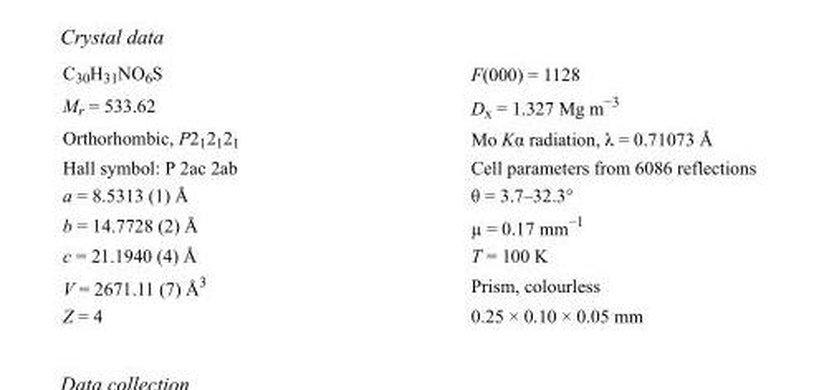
<table><tbody><tr><td>C<sub>30</sub>H<sub>31</sub>NO<sub>6</sub>S</td><td>F(000) = 1128</td></tr><tr><td>M<sub>r</sub> = 533.62</td><td>D<sub>x</sub> = 1.327 Mg m<sup>−3</sup></td></tr><tr><td>Orthorhombic, P2<sub>1</sub>2<sub>1</sub>2<sub>1</sub></td><td>Mo Kα radiation, λ = 0.71073 Å</td></tr><tr><td>Hall symbol: P 2ac 2ab</td><td>Cell parameters from 6086 reflections</td></tr><tr><td>a = 8.5313 (1) Å</td><td>θ = 3.7–32.3°</td></tr><tr><td>b = 14.7728 (2) Å</td><td>µ = 0.17 mm<sup>−1</sup></td></tr><tr><td>c = 21.1940 (4) Å</td><td>T = 100 K</td></tr><tr><td>V = 2671.11 (7) Å<sup>3</sup></td><td>Prism, colourless</td></tr><tr><td>Z = 4</td><td>0.25 × 0.10 × 0.05 mm</td></tr></tbody></table>